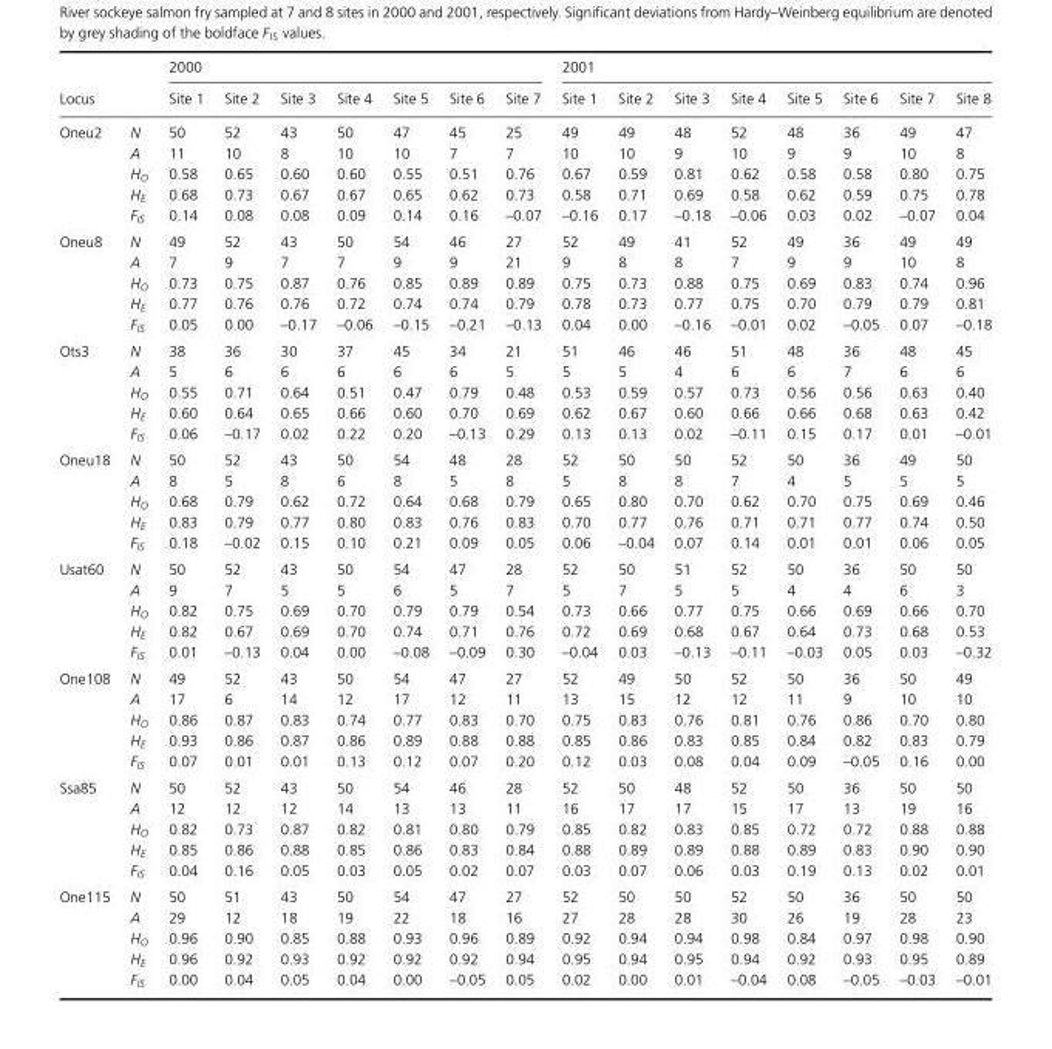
<table><thead><tr><td rowspan="2">Locus</td><td rowspan="2"></td><td colspan="7">2000</td><td colspan="8">2001</td></tr><tr><td>Site 1</td><td>Site 2</td><td>Site 3</td><td>Site 4</td><td>Site 5</td><td>Site 6</td><td>Site 7</td><td>Site 1</td><td>Site 2</td><td>Site 3</td><td>Site 4</td><td>Site 5</td><td>Site 6</td><td>Site 7</td><td>Site 8</td></tr></thead><tbody><tr><td rowspan="5">Oneu2</td><td>N</td><td>50</td><td>52</td><td>43</td><td>50</td><td>47</td><td>45</td><td>25</td><td>49</td><td>49</td><td>48</td><td>52</td><td>48</td><td>36</td><td>49</td><td>47</td></tr><tr><td>A</td><td>11</td><td>10</td><td>8</td><td>10</td><td>10</td><td>7</td><td>7</td><td>10</td><td>10</td><td>9</td><td>10</td><td>9</td><td>9</td><td>10</td><td>8</td></tr><tr><td>H<sub>O</sub></td><td>0.58</td><td>0.65</td><td>0.60</td><td>0.60</td><td>0.55</td><td>0.51</td><td>0.76</td><td>0.67</td><td>0.59</td><td>0.81</td><td>0.62</td><td>0.58</td><td>0.58</td><td>0.80</td><td>0.75</td></tr><tr><td>H<sub>E</sub></td><td>0.68</td><td>0.73</td><td>0.67</td><td>0.67</td><td>0.65</td><td>0.62</td><td>0.73</td><td>0.58</td><td>0.71</td><td>0.69</td><td>0.58</td><td>0.62</td><td>0.59</td><td>0.75</td><td>0.78</td></tr><tr><td>F<sub>IS</sub></td><td>0.14</td><td>0.08</td><td>0.08</td><td>0.09</td><td>0.14</td><td>0.16</td><td>–0.07</td><td>–0.16</td><td>0.17</td><td>–0.18</td><td>–0.06</td><td>0.03</td><td>0.02</td><td>–0.07</td><td>0.04</td></tr><tr><td rowspan="5">Oneu8</td><td>N</td><td>49</td><td>52</td><td>43</td><td>50</td><td>54</td><td>46</td><td>27</td><td>52</td><td>49</td><td>41</td><td>52</td><td>49</td><td>36</td><td>49</td><td>49</td></tr><tr><td>A</td><td>7</td><td>9</td><td>7</td><td>7</td><td>9</td><td>9</td><td>21</td><td>9</td><td>8</td><td>8</td><td>7</td><td>9</td><td>9</td><td>10</td><td>8</td></tr><tr><td>H<sub>O</sub></td><td>0.73</td><td>0.75</td><td>0.87</td><td>0.76</td><td>0.85</td><td>0.89</td><td>0.89</td><td>0.75</td><td>0.73</td><td>0.88</td><td>0.75</td><td>0.69</td><td>0.83</td><td>0.74</td><td>0.96</td></tr><tr><td>H<sub>E</sub></td><td>0.77</td><td>0.76</td><td>0.76</td><td>0.72</td><td>0.74</td><td>0.74</td><td>0.79</td><td>0.78</td><td>0.73</td><td>0.77</td><td>0.75</td><td>0.70</td><td>0.79</td><td>0.79</td><td>0.81</td></tr><tr><td>F<sub>IS</sub></td><td>0.05</td><td>0.00</td><td>–0.17</td><td>–0.06</td><td>–0.15</td><td>–0.21</td><td>–0.13</td><td>0.04</td><td>0.00</td><td>–0.16</td><td>–0.01</td><td>0.02</td><td>–0.05</td><td>0.07</td><td>–0.18</td></tr><tr><td rowspan="5">Ots3</td><td>N</td><td>38</td><td>36</td><td>30</td><td>37</td><td>45</td><td>34</td><td>21</td><td>51</td><td>46</td><td>46</td><td>51</td><td>48</td><td>36</td><td>48</td><td>45</td></tr><tr><td>A</td><td>5</td><td>6</td><td>6</td><td>6</td><td>6</td><td>6</td><td>5</td><td>5</td><td>5</td><td>4</td><td>6</td><td>6</td><td>7</td><td>6</td><td>6</td></tr><tr><td>H<sub>O</sub></td><td>0.55</td><td>0.71</td><td>0.64</td><td>0.51</td><td>0.47</td><td>0.79</td><td>0.48</td><td>0.53</td><td>0.59</td><td>0.57</td><td>0.73</td><td>0.56</td><td>0.56</td><td>0.63</td><td>0.40</td></tr><tr><td>H<sub>E</sub></td><td>0.60</td><td>0.64</td><td>0.65</td><td>0.66</td><td>0.60</td><td>0.70</td><td>0.69</td><td>0.62</td><td>0.67</td><td>0.60</td><td>0.66</td><td>0.66</td><td>0.68</td><td>0.63</td><td>0.42</td></tr><tr><td>F<sub>IS</sub></td><td>0.06</td><td>–0.17</td><td>0.02</td><td>0.22</td><td>0.20</td><td>–0.13</td><td>0.29</td><td>0.13</td><td>0.13</td><td>0.02</td><td>–0.11</td><td>0.15</td><td>0.17</td><td>0.01</td><td>–0.01</td></tr><tr><td rowspan="5">Oneu18</td><td>N</td><td>50</td><td>52</td><td>43</td><td>50</td><td>54</td><td>48</td><td>28</td><td>52</td><td>50</td><td>50</td><td>52</td><td>50</td><td>36</td><td>49</td><td>50</td></tr><tr><td>A</td><td>8</td><td>5</td><td>8</td><td>6</td><td>8</td><td>5</td><td>8</td><td>5</td><td>8</td><td>8</td><td>7</td><td>4</td><td>5</td><td>5</td><td>5</td></tr><tr><td>H<sub>O</sub></td><td>0.68</td><td>0.79</td><td>0.62</td><td>0.72</td><td>0.64</td><td>0.68</td><td>0.79</td><td>0.65</td><td>0.80</td><td>0.70</td><td>0.62</td><td>0.70</td><td>0.75</td><td>0.69</td><td>0.46</td></tr><tr><td>H<sub>E</sub></td><td>0.83</td><td>0.79</td><td>0.77</td><td>0.80</td><td>0.83</td><td>0.76</td><td>0.83</td><td>0.70</td><td>0.77</td><td>0.76</td><td>0.71</td><td>0.71</td><td>0.77</td><td>0.74</td><td>0.50</td></tr><tr><td>F<sub>IS</sub></td><td>0.18</td><td>–0.02</td><td>0.15</td><td>0.10</td><td>0.21</td><td>0.09</td><td>0.05</td><td>0.06</td><td>–0.04</td><td>0.07</td><td>0.14</td><td>0.01</td><td>0.01</td><td>0.06</td><td>0.05</td></tr><tr><td rowspan="5">Usat60</td><td>N</td><td>50</td><td>52</td><td>43</td><td>50</td><td>54</td><td>47</td><td>28</td><td>52</td><td>50</td><td>51</td><td>52</td><td>50</td><td>36</td><td>50</td><td>50</td></tr><tr><td>A</td><td>9</td><td>7</td><td>5</td><td>5</td><td>6</td><td>5</td><td>7</td><td>5</td><td>7</td><td>5</td><td>5</td><td>4</td><td>4</td><td>6</td><td>3</td></tr><tr><td>H<sub>O</sub></td><td>0.82</td><td>0.75</td><td>0.69</td><td>0.70</td><td>0.79</td><td>0.79</td><td>0.54</td><td>0.73</td><td>0.66</td><td>0.77</td><td>0.75</td><td>0.66</td><td>0.69</td><td>0.66</td><td>0.70</td></tr><tr><td>H<sub>E</sub></td><td>0.82</td><td>0.67</td><td>0.69</td><td>0.70</td><td>0.74</td><td>0.71</td><td>0.76</td><td>0.72</td><td>0.69</td><td>0.68</td><td>0.67</td><td>0.64</td><td>0.73</td><td>0.68</td><td>0.53</td></tr><tr><td>F<sub>IS</sub></td><td>0.01</td><td>–0.13</td><td>0.04</td><td>0.00</td><td>–0.08</td><td>–0.09</td><td>0.30</td><td>–0.04</td><td>0.03</td><td>–0.13</td><td>–0.11</td><td>–0.03</td><td>0.05</td><td>0.03</td><td>–0.32</td></tr><tr><td rowspan="5">One108</td><td>N</td><td>49</td><td>52</td><td>43</td><td>50</td><td>54</td><td>47</td><td>27</td><td>52</td><td>49</td><td>50</td><td>52</td><td>50</td><td>36</td><td>50</td><td>49</td></tr><tr><td>A</td><td>17</td><td>6</td><td>14</td><td>12</td><td>17</td><td>12</td><td>11</td><td>13</td><td>15</td><td>12</td><td>12</td><td>11</td><td>9</td><td>10</td><td>10</td></tr><tr><td>H<sub>O</sub></td><td>0.86</td><td>0.87</td><td>0.83</td><td>0.74</td><td>0.77</td><td>0.83</td><td>0.70</td><td>0.75</td><td>0.83</td><td>0.76</td><td>0.81</td><td>0.76</td><td>0.86</td><td>0.70</td><td>0.80</td></tr><tr><td>H<sub>E</sub></td><td>0.93</td><td>0.86</td><td>0.87</td><td>0.86</td><td>0.89</td><td>0.88</td><td>0.88</td><td>0.85</td><td>0.86</td><td>0.83</td><td>0.85</td><td>0.84</td><td>0.82</td><td>0.83</td><td>0.79</td></tr><tr><td>F<sub>IS</sub></td><td>0.07</td><td>0.01</td><td>0.01</td><td>0.13</td><td>0.12</td><td>0.07</td><td>0.20</td><td>0.12</td><td>0.03</td><td>0.08</td><td>0.04</td><td>0.09</td><td>–0.05</td><td>0.16</td><td>0.00</td></tr><tr><td rowspan="5">Ssa85</td><td>N</td><td>50</td><td>52</td><td>43</td><td>50</td><td>54</td><td>46</td><td>28</td><td>52</td><td>50</td><td>48</td><td>52</td><td>50</td><td>36</td><td>50</td><td>50</td></tr><tr><td>A</td><td>12</td><td>12</td><td>12</td><td>14</td><td>13</td><td>13</td><td>11</td><td>16</td><td>17</td><td>17</td><td>15</td><td>17</td><td>13</td><td>19</td><td>16</td></tr><tr><td>H<sub>O</sub></td><td>0.82</td><td>0.73</td><td>0.87</td><td>0.82</td><td>0.81</td><td>0.80</td><td>0.79</td><td>0.85</td><td>0.82</td><td>0.83</td><td>0.85</td><td>0.72</td><td>0.72</td><td>0.88</td><td>0.88</td></tr><tr><td>H<sub>E</sub></td><td>0.85</td><td>0.86</td><td>0.88</td><td>0.85</td><td>0.86</td><td>0.83</td><td>0.84</td><td>0.88</td><td>0.89</td><td>0.89</td><td>0.88</td><td>0.89</td><td>0.83</td><td>0.90</td><td>0.90</td></tr><tr><td>F<sub>IS</sub></td><td>0.04</td><td>0.16</td><td>0.05</td><td>0.03</td><td>0.05</td><td>0.02</td><td>0.07</td><td>0.03</td><td>0.07</td><td>0.06</td><td>0.03</td><td>0.19</td><td>0.13</td><td>0.02</td><td>0.01</td></tr><tr><td rowspan="5">One115</td><td>N</td><td>50</td><td>51</td><td>43</td><td>50</td><td>54</td><td>47</td><td>27</td><td>52</td><td>50</td><td>50</td><td>52</td><td>50</td><td>36</td><td>50</td><td>50</td></tr><tr><td>A</td><td>29</td><td>12</td><td>18</td><td>19</td><td>22</td><td>18</td><td>16</td><td>27</td><td>28</td><td>28</td><td>30</td><td>26</td><td>19</td><td>28</td><td>23</td></tr><tr><td>H<sub>O</sub></td><td>0.96</td><td>0.90</td><td>0.85</td><td>0.88</td><td>0.93</td><td>0.96</td><td>0.89</td><td>0.92</td><td>0.94</td><td>0.94</td><td>0.98</td><td>0.84</td><td>0.97</td><td>0.98</td><td>0.90</td></tr><tr><td>H<sub>E</sub></td><td>0.96</td><td>0.92</td><td>0.93</td><td>0.92</td><td>0.92</td><td>0.92</td><td>0.94</td><td>0.95</td><td>0.94</td><td>0.95</td><td>0.94</td><td>0.92</td><td>0.93</td><td>0.95</td><td>0.89</td></tr><tr><td>F<sub>IS</sub></td><td>0.00</td><td>0.04</td><td>0.05</td><td>0.04</td><td>0.00</td><td>–0.05</td><td>0.05</td><td>0.02</td><td>0.00</td><td>0.01</td><td>–0.04</td><td>0.08</td><td>–0.05</td><td>–0.03</td><td>–0.01</td></tr></tbody></table>